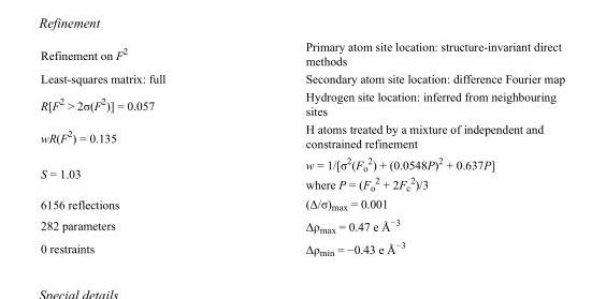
<table><tbody><tr><td>Refinement on F<sup>2</sup></td><td>Primary atom site location: structure-invariant direct methods</td></tr><tr><td>Least-squares matrix: full</td><td>Secondary atom site location: difference Fourier map</td></tr><tr><td>R[F<sup>2</sup> &gt; 2σ(F<sup>2</sup>)] = 0.057</td><td>Hydrogen site location: inferred from neighbouring sites</td></tr><tr><td>wR(F<sup>2</sup>) = 0.135</td><td>H atoms treated by a mixture of independent and constrained refinement</td></tr><tr><td>S = 1.03</td><td>w = 1/[σ<sup>2</sup>(F<sub>o</sub> <sup>2</sup>) + (0.0548P)<sup>2</sup> + 0.637P] where P = (F<sub>o</sub> <sup>2</sup> + 2F<sub>c</sub> <sup>2</sup>)/3</td></tr><tr><td>6156 reflections</td><td>(Δ/σ)<sub>max</sub> = 0.001</td></tr><tr><td>282 parameters</td><td>Δρ<sub>max</sub> = 0.47 e Å<sup>−3</sup></td></tr><tr><td>0 restraints</td><td>Δρ<sub>min</sub> = −0.43 e Å<sup>−3</sup></td></tr></tbody></table>